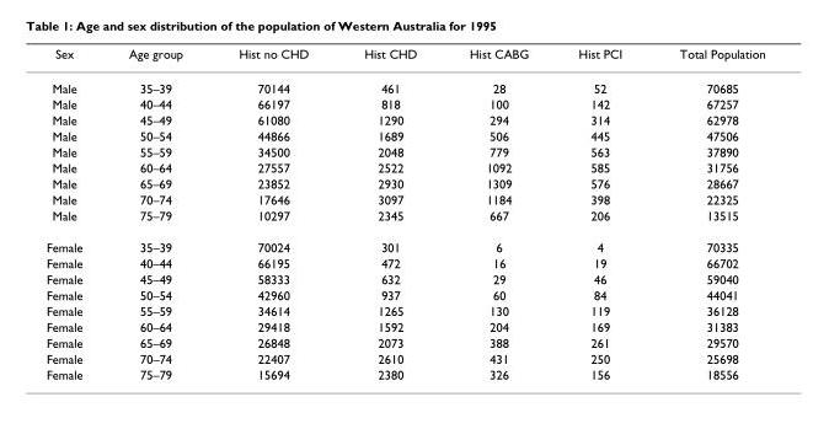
<table><thead><tr><td>Sex</td><td>Age group</td><td>Hist no CHD</td><td>Hist CHD</td><td>Hist CABG</td><td>Hist PCI</td><td>Total Population</td></tr></thead><tbody><tr><td>Male</td><td>35–39</td><td>70144</td><td>461</td><td>28</td><td>52</td><td>70685</td></tr><tr><td>Male</td><td>40–44</td><td>66197</td><td>818</td><td>100</td><td>142</td><td>67257</td></tr><tr><td>Male</td><td>45–49</td><td>61080</td><td>1290</td><td>294</td><td>314</td><td>62978</td></tr><tr><td>Male</td><td>50–54</td><td>44866</td><td>1689</td><td>506</td><td>445</td><td>47506</td></tr><tr><td>Male</td><td>55–59</td><td>34500</td><td>2048</td><td>779</td><td>563</td><td>37890</td></tr><tr><td>Male</td><td>60–64</td><td>27557</td><td>2522</td><td>1092</td><td>585</td><td>31756</td></tr><tr><td>Male</td><td>65–69</td><td>23852</td><td>2930</td><td>1309</td><td>576</td><td>28667</td></tr><tr><td>Male</td><td>70–74</td><td>17646</td><td>3097</td><td>1184</td><td>398</td><td>22325</td></tr><tr><td>Male</td><td>75–79</td><td>10297</td><td>2345</td><td>667</td><td>206</td><td>13515</td></tr><tr><td>Female</td><td>35–39</td><td>70024</td><td>301</td><td>6</td><td>4</td><td>70335</td></tr><tr><td>Female</td><td>40–44</td><td>66195</td><td>472</td><td>16</td><td>19</td><td>66702</td></tr><tr><td>Female</td><td>45–49</td><td>58333</td><td>632</td><td>29</td><td>46</td><td>59040</td></tr><tr><td>Female</td><td>50–54</td><td>42960</td><td>937</td><td>60</td><td>84</td><td>44041</td></tr><tr><td>Female</td><td>55–59</td><td>34614</td><td>1265</td><td>130</td><td>119</td><td>36128</td></tr><tr><td>Female</td><td>60–64</td><td>29418</td><td>1592</td><td>204</td><td>169</td><td>31383</td></tr><tr><td>Female</td><td>65–69</td><td>26848</td><td>2073</td><td>388</td><td>261</td><td>29570</td></tr><tr><td>Female</td><td>70–74</td><td>22407</td><td>2610</td><td>431</td><td>250</td><td>25698</td></tr><tr><td>Female</td><td>75–79</td><td>15694</td><td>2380</td><td>326</td><td>156</td><td>18556</td></tr></tbody></table>